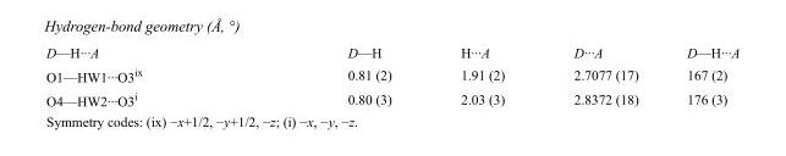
<table><tbody><tr><td>D—H···A</td><td>D—H</td><td>H···A</td><td>D···A</td><td>D—H···A</td></tr><tr><td>O1—HW1···O3<sup>ix</sup></td><td>0.81 (2)</td><td>1.91 (2)</td><td>2.7077 (17)</td><td>167 (2)</td></tr><tr><td>O4—HW2···O3<sup>i</sup></td><td>0.80 (3)</td><td>2.03 (3)</td><td>2.8372 (18)</td><td>176 (3)</td></tr></tbody></table>